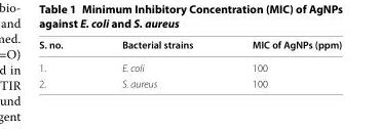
<table><thead><tr><td>S. no.</td><td>Bacterial strains</td><td>MIC of AgNPs (ppm)</td></tr></thead><tbody><tr><td>1.</td><td>E. coli</td><td>100</td></tr><tr><td>2.</td><td>S. aureus</td><td>100</td></tr></tbody></table>